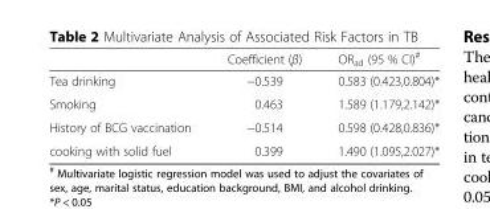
<table><thead><tr><td></td><td>Coefficient (β)</td><td>OR<sub>ad</sub> (95 % CI)<sup>#</sup></td></tr></thead><tbody><tr><td>Tea drinking</td><td>−0.539</td><td>0.583 (0.423,0.804)*</td></tr><tr><td>Smoking</td><td>0.463</td><td>1.589 (1.179,2.142)*</td></tr><tr><td>History of BCG vaccination</td><td>−0.514</td><td>0.598 (0.428,0.836)*</td></tr><tr><td>cooking with solid fuel</td><td>0.399</td><td>1.490 (1.095,2.027)*</td></tr></tbody></table>